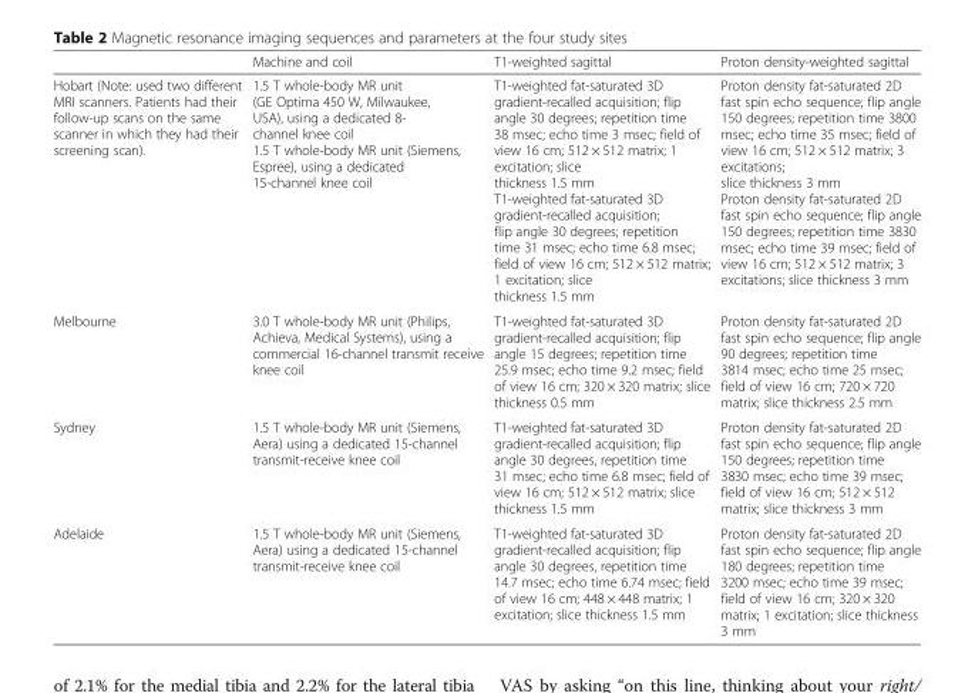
<table><thead><tr><td></td><td>Machine and coil</td><td>T1-weighted sagittal</td><td>Proton density-weighted sagittal</td></tr></thead><tbody><tr><td>Hobart (Note: used two different MRI scanners. Patients had their follow-up scans on the same scanner in which they had their screening scan).</td><td>1.5 T whole-body MR unit (GE Optima 450 W, Milwaukee, USA), using a dedicated 8- channel knee coil 1.5 T whole-body MR unit (Siemens, Espree), using a dedicated 15-channel knee coil</td><td>T1-weighted fat-saturated 3D gradient-recalled acquisition; flip angle 30 degrees; repetition time 38 msec; echo time 3 msec; field of view 16 cm; 512 × 512 matrix; 1 excitation; slice thickness 1.5 mm T1-weighted fat-saturated 3D gradient-recalled acquisition; flip angle 30 degrees; repetition time 31 msec; echo time 6.8 msec; field of view 16 cm; 512 × 512 matrix; 1 excitation; slice thickness 1.5 mm</td><td>Proton density fat-saturated 2D fast spin echo sequence; flip angle 150 degrees; repetition time 3800 msec; echo time 35 msec; field of view 16 cm; 512 × 512 matrix; 3 excitations; slice thickness 3 mm Proton density fat-saturated 2D fast spin echo sequence; flip angle 150 degrees; repetition time 3830 msec; echo time 39 msec; field of view 16 cm; 512 × 512 matrix; 3 excitations; slice thickness 3 mm</td></tr><tr><td>Melbourne</td><td>3.0 T whole-body MR unit (Philips, Achieva, Medical Systems), using a commercial 16-channel transmit receive knee coil</td><td>T1-weighted fat-saturated 3D gradient-recalled acquisition; flip angle 15 degrees; repetition time 25.9 msec; echo time 9.2 msec; field of view 16 cm; 320 × 320 matrix; slice thickness 0.5 mm</td><td>Proton density fat-saturated 2D fast spin echo sequence; flip angle 90 degrees; repetition time 3814 msec; echo time 25 msec; field of view 16 cm; 720 × 720 matrix; slice thickness 2.5 mm</td></tr><tr><td>Sydney</td><td>1.5 T whole-body MR unit (Siemens, Aera) using a dedicated 15-channel transmit-receive knee coil</td><td>T1-weighted fat-saturated 3D gradient-recalled acquisition; flip angle 30 degrees, repetition time 31 msec; echo time 6.8 msec; field of view 16 cm; 512 × 512 matrix; slice thickness 1.5 mm</td><td>Proton density fat-saturated 2D fast spin echo sequence; flip angle 150 degrees; repetition time 3830 msec; echo time 39 msec; field of view 16 cm; 512 × 512 matrix; slice thickness 3 mm</td></tr><tr><td>Adelaide</td><td>1.5 T whole-body MR unit (Siemens, Aera) using a dedicated 15-channel transmit-receive knee coil</td><td>T1-weighted fat-saturated 3D gradient-recalled acquisition; flip angle 30 degrees, repetition time 14.7 msec; echo time 6.74 msec; field of view 16 cm; 448 × 448 matrix; 1 excitation; slice thickness 1.5 mm</td><td>Proton density fat-saturated 2D fast spin echo sequence; flip angle 180 degrees; repetition time 3200 msec; echo time 39 msec; field of view 16 cm; 320 × 320 matrix; 1 excitation; slice thickness 3 mm</td></tr></tbody></table>